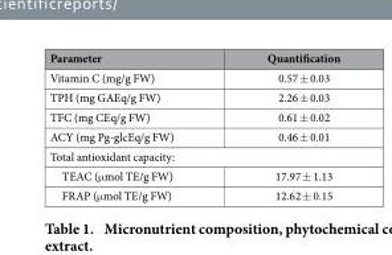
<table><thead><tr><td>Parameter</td><td>Quantification</td></tr></thead><tbody><tr><td>Vitamin C (mg/g FW)</td><td>0.57 ± 0.03</td></tr><tr><td>TPH (mg GAEq/g FW)</td><td>2.26 ± 0.03</td></tr><tr><td>TFC (mg CEq/g FW)</td><td>0.61 ± 0.02</td></tr><tr><td>ACY (mg Pg-glcEq/g FW)</td><td>0.46 ± 0.01</td></tr><tr><td colspan="2">Total antioxidant capacity:</td></tr><tr><td>TEAC (μ mol TE/g FW)</td><td>17.97 ± 1.13</td></tr><tr><td>FRAP (μ mol TE/g FW)</td><td>12.62 ± 0.15</td></tr></tbody></table>